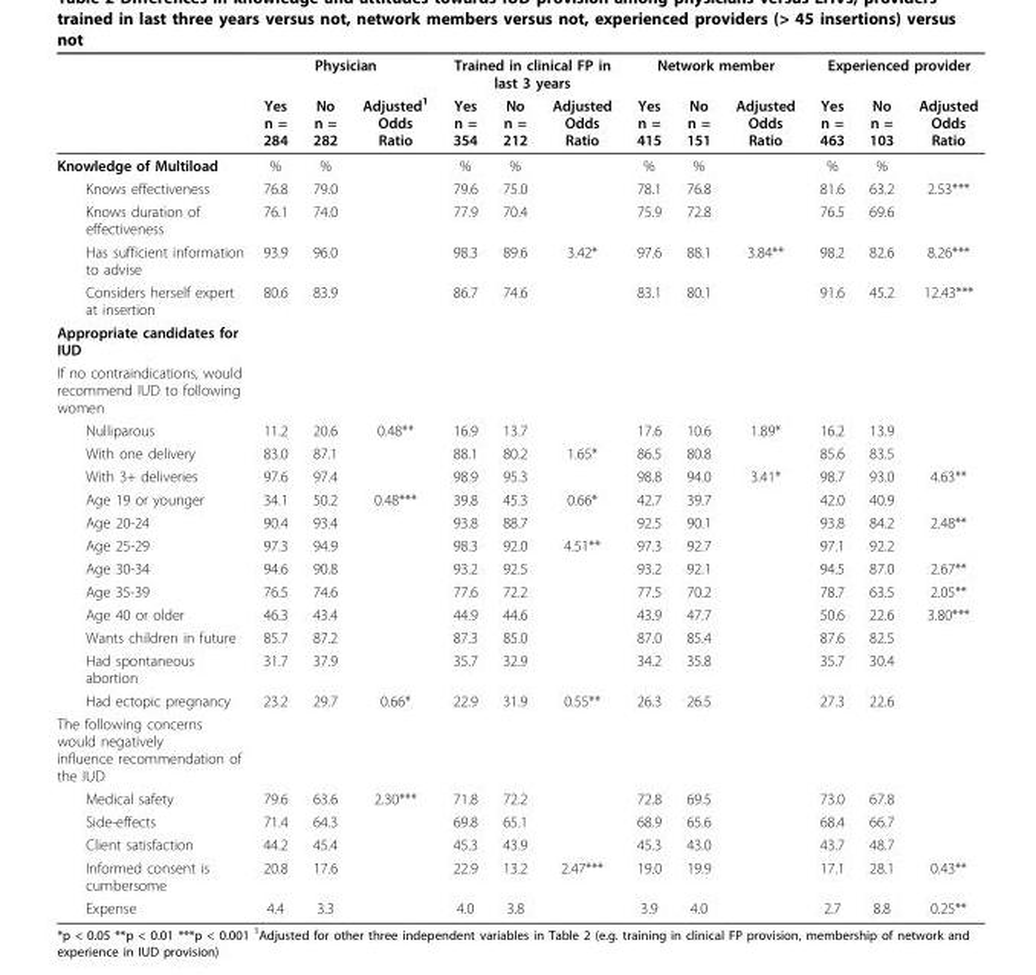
<table><thead><tr><td rowspan="2"></td><td colspan="3">Physician</td><td colspan="3">Trained in clinical FP in last 3 years</td><td colspan="3">Network member</td><td colspan="3">Experienced provider</td></tr><tr><td>Yes n = 284</td><td>No n = 282</td><td>Adjusted<sup>1</sup> Odds Ratio</td><td>Yes n = 354</td><td>No n = 212</td><td>Adjusted Odds Ratio</td><td>Yes n = 415</td><td>No n = 151</td><td>Adjusted Odds Ratio</td><td>Yes n = 463</td><td>No n = 103</td><td>Adjusted Odds Ratio</td></tr></thead><tbody><tr><td>Knowledge of Multiload</td><td>%</td><td>%</td><td></td><td>%</td><td>%</td><td></td><td>%</td><td>%</td><td></td><td>%</td><td>%</td><td></td></tr><tr><td>Knows effectiveness</td><td>76.8</td><td>79.0</td><td></td><td>79.6</td><td>75.0</td><td></td><td>78.1</td><td>76.8</td><td></td><td>81.6</td><td>63.2</td><td>2.53***</td></tr><tr><td>Knows duration of effectiveness</td><td>76.1</td><td>74.0</td><td></td><td>77.9</td><td>70.4</td><td></td><td>75.9</td><td>72.8</td><td></td><td>76.5</td><td>69.6</td><td></td></tr><tr><td>Has sufficient information to advise</td><td>93.9</td><td>96.0</td><td></td><td>98.3</td><td>89.6</td><td>3.42*</td><td>97.6</td><td>88.1</td><td>3.84**</td><td>98.2</td><td>82.6</td><td>8.26***</td></tr><tr><td>Considers herself expert at insertion</td><td>80.6</td><td>83.9</td><td></td><td>86.7</td><td>74.6</td><td></td><td>83.1</td><td>80.1</td><td></td><td>91.6</td><td>45.2</td><td>12.43***</td></tr><tr><td colspan="13">Appropriate candidates for IUD</td></tr><tr><td colspan="13">If no contraindications, would recommend IUD to following women</td></tr><tr><td>Nulliparous</td><td>11.2</td><td>20.6</td><td>0.48**</td><td>16.9</td><td>13.7</td><td></td><td>17.6</td><td>10.6</td><td>1.89*</td><td>16.2</td><td>13.9</td><td></td></tr><tr><td>With one delivery</td><td>83.0</td><td>87.1</td><td></td><td>88.1</td><td>80.2</td><td>1.65*</td><td>86.5</td><td>80.8</td><td></td><td>85.6</td><td>83.5</td><td></td></tr><tr><td>With 3+ deliveries</td><td>97.6</td><td>97.4</td><td></td><td>98.9</td><td>95.3</td><td></td><td>98.8</td><td>94.0</td><td>3.41*</td><td>98.7</td><td>93.0</td><td>4.63**</td></tr><tr><td>Age 19 or younger</td><td>34.1</td><td>50.2</td><td>0.48***</td><td>39.8</td><td>45.3</td><td>0.66*</td><td>42.7</td><td>39.7</td><td></td><td>42.0</td><td>40.9</td><td></td></tr><tr><td>Age 20-24</td><td>90.4</td><td>93.4</td><td></td><td>93.8</td><td>88.7</td><td></td><td>92.5</td><td>90.1</td><td></td><td>93.8</td><td>84.2</td><td>2.48**</td></tr><tr><td>Age 25-29</td><td>97.3</td><td>94.9</td><td></td><td>98.3</td><td>92.0</td><td>4.51**</td><td>97.3</td><td>92.7</td><td></td><td>97.1</td><td>92.2</td><td></td></tr><tr><td>Age 30-34</td><td>94.6</td><td>90.8</td><td></td><td>93.2</td><td>92.5</td><td></td><td>93.2</td><td>92.1</td><td></td><td>94.5</td><td>87.0</td><td>2.67**</td></tr><tr><td>Age 35-39</td><td>76.5</td><td>74.6</td><td></td><td>77.6</td><td>72.2</td><td></td><td>77.5</td><td>70.2</td><td></td><td>78.7</td><td>63.5</td><td>2.05**</td></tr><tr><td>Age 40 or older</td><td>46.3</td><td>43.4</td><td></td><td>44.9</td><td>44.6</td><td></td><td>43.9</td><td>47.7</td><td></td><td>50.6</td><td>22.6</td><td>3.80***</td></tr><tr><td>Wants children in future</td><td>85.7</td><td>87.2</td><td></td><td>87.3</td><td>85.0</td><td></td><td>87.0</td><td>85.4</td><td></td><td>87.6</td><td>82.5</td><td></td></tr><tr><td>Had spontaneous abortion</td><td>31.7</td><td>37.9</td><td></td><td>35.7</td><td>32.9</td><td></td><td>34.2</td><td>35.8</td><td></td><td>35.7</td><td>30.4</td><td></td></tr><tr><td>Had ectopic pregnancy</td><td>23.2</td><td>29.7</td><td>0.66*</td><td>22.9</td><td>31.9</td><td>0.55**</td><td>26.3</td><td>26.5</td><td></td><td>27.3</td><td>22.6</td><td></td></tr><tr><td colspan="13">The following concerns would negatively influence recommendation of the IUD</td></tr><tr><td>Medical safety</td><td>79.6</td><td>63.6</td><td>2.30***</td><td>71.8</td><td>72.2</td><td></td><td>72.8</td><td>69.5</td><td></td><td>73.0</td><td>67.8</td><td></td></tr><tr><td>Side-effects</td><td>71.4</td><td>64.3</td><td></td><td>69.8</td><td>65.1</td><td></td><td>68.9</td><td>65.6</td><td></td><td>68.4</td><td>66.7</td><td></td></tr><tr><td>Client satisfaction</td><td>44.2</td><td>45.4</td><td></td><td>45.3</td><td>43.9</td><td></td><td>45.3</td><td>43.0</td><td></td><td>43.7</td><td>48.7</td><td></td></tr><tr><td>Informed consent is cumbersome</td><td>20.8</td><td>17.6</td><td></td><td>22.9</td><td>13.2</td><td>2.47***</td><td>19.0</td><td>19.9</td><td></td><td>17.1</td><td>28.1</td><td>0.43**</td></tr><tr><td>Expense</td><td>4.4</td><td>3.3</td><td></td><td>4.0</td><td>3.8</td><td></td><td>3.9</td><td>4.0</td><td></td><td>2.7</td><td>8.8</td><td>0.25**</td></tr></tbody></table>